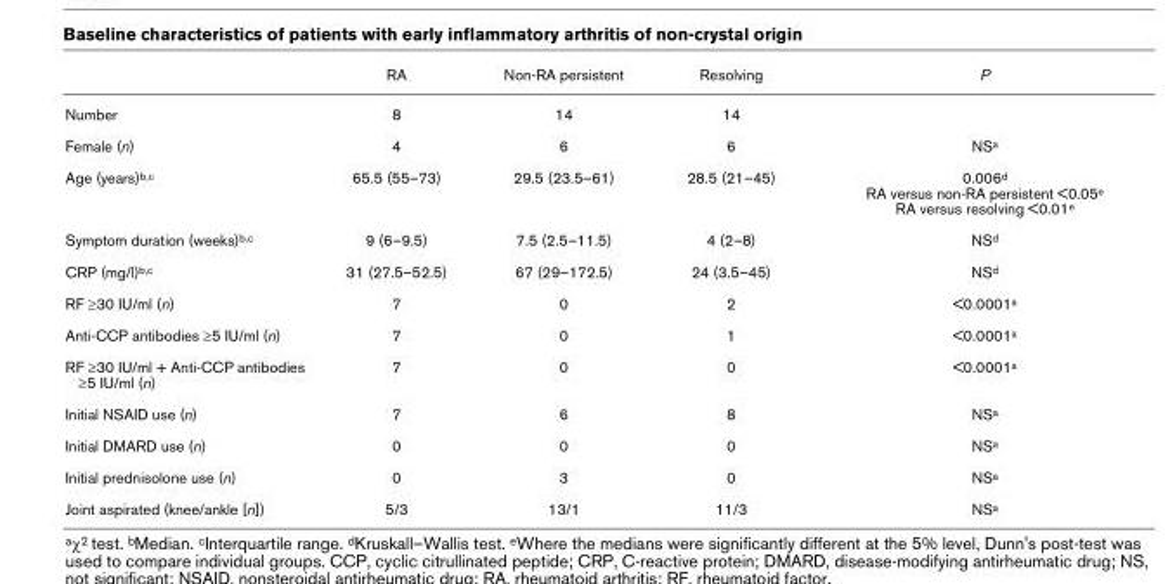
<table><thead><tr><td></td><td>RA</td><td>Non-RA persistent</td><td>Resolving</td><td>P</td></tr></thead><tbody><tr><td>Number</td><td>8</td><td>14</td><td>14</td><td></td></tr><tr><td>Female (n)</td><td>4</td><td>6</td><td>6</td><td>NSa</td></tr><tr><td>Age (years)b,c</td><td>65.5 (55–73)</td><td>29.5 (23.5–61)</td><td>28.5 (21–45)</td><td>0.006d RA versus non-RA persistent &lt;0.05e RA versus resolving &lt;0.01e</td></tr><tr><td>Symptom duration (weeks)b,c</td><td>9 (6–9.5)</td><td>7.5 (2.5–11.5)</td><td>4 (2–8)</td><td>NSd</td></tr><tr><td>CRP (mg/l)b,c</td><td>31 (27.5–52.5)</td><td>67 (29–172.5)</td><td>24 (3.5–45)</td><td>NSd</td></tr><tr><td>RF ≥30 IU/ml (n)</td><td>7</td><td>0</td><td>2</td><td>&lt;0.0001a</td></tr><tr><td>Anti-CCP antibodies ≥5 IU/ml (n)</td><td>7</td><td>0</td><td>1</td><td>&lt;0.0001a</td></tr><tr><td>RF ≥30 IU/ml + Anti-CCP antibodies ≥5 IU/ml (n)</td><td>7</td><td>0</td><td>0</td><td>&lt;0.0001a</td></tr><tr><td>Initial NSAID use (n)</td><td>7</td><td>6</td><td>8</td><td>NSa</td></tr><tr><td>Initial DMARD use (n)</td><td>0</td><td>0</td><td>0</td><td>NSa</td></tr><tr><td>Initial prednisolone use (n)</td><td>0</td><td>3</td><td>0</td><td>NSa</td></tr><tr><td>Joint aspirated (knee/ankle [n])</td><td>5/3</td><td>13/1</td><td>11/3</td><td>NSa</td></tr></tbody></table>